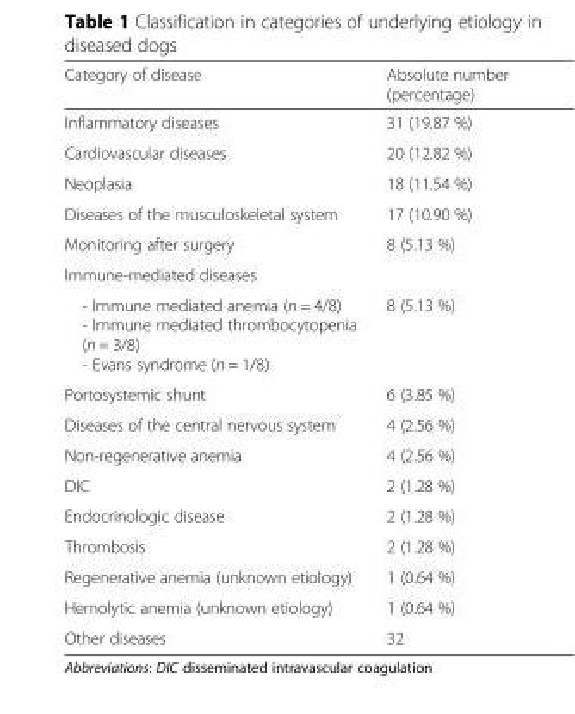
<table><thead><tr><td>Category of disease</td><td>Absolute number (percentage)</td></tr></thead><tbody><tr><td>Inflammatory diseases</td><td>31 (19.87 %)</td></tr><tr><td>Cardiovascular diseases</td><td>20 (12.82 %)</td></tr><tr><td>Neoplasia</td><td>18 (11.54 %)</td></tr><tr><td>Diseases of the musculoskeletal system</td><td>17 (10.90 %)</td></tr><tr><td>Monitoring after surgery</td><td>8 (5.13 %)</td></tr><tr><td colspan="2">Immune-mediated diseases</td></tr><tr><td>- Immune mediated anemia (n = 4/8) - Immune mediated thrombocytopenia (n = 3/8) - Evans syndrome (n = 1/8)</td><td>8 (5.13 %)</td></tr><tr><td>Portosystemic shunt</td><td>6 (3.85 %)</td></tr><tr><td>Diseases of the central nervous system</td><td>4 (2.56 %)</td></tr><tr><td>Non-regenerative anemia</td><td>4 (2.56 %)</td></tr><tr><td>DIC</td><td>2 (1.28 %)</td></tr><tr><td>Endocrinologic disease</td><td>2 (1.28 %)</td></tr><tr><td>Thrombosis</td><td>2 (1.28 %)</td></tr><tr><td>Regenerative anemia (unknown etiology)</td><td>1 (0.64 %)</td></tr><tr><td>Hemolytic anemia (unknown etiology)</td><td>1 (0.64 %)</td></tr><tr><td>Other diseases</td><td>32</td></tr></tbody></table>